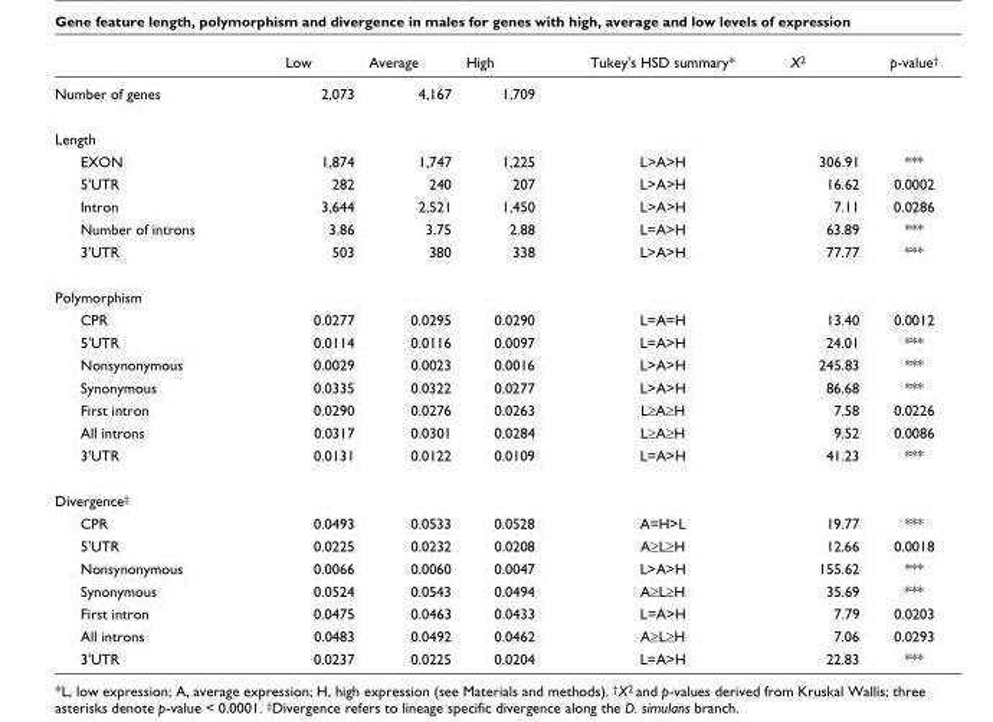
<table><thead><tr><td></td><td>Low</td><td>Average</td><td>High</td><td>Tukey&#x27;s HSD summary*</td><td>X<sup>2</sup></td><td>p-value<sup>†</sup></td></tr></thead><tbody><tr><td>Number of genes</td><td>2,073</td><td>4,167</td><td>1,709</td><td></td><td></td><td></td></tr><tr><td colspan="7">Length</td></tr><tr><td>EXON</td><td>1,874</td><td>1,747</td><td>1,225</td><td>L&gt;A&gt;H</td><td>306.91</td><td>***</td></tr><tr><td>5&#x27;UTR</td><td>282</td><td>240</td><td>207</td><td>L&gt;A&gt;H</td><td>16.62</td><td>0.0002</td></tr><tr><td>Intron</td><td>3,644</td><td>2,521</td><td>1,450</td><td>L&gt;A&gt;H</td><td>7.11</td><td>0.0286</td></tr><tr><td>Number of introns</td><td>3.86</td><td>3.75</td><td>2.88</td><td>L=A&gt;H</td><td>63.89</td><td>***</td></tr><tr><td>3&#x27;UTR</td><td>503</td><td>380</td><td>338</td><td>L&gt;A&gt;H</td><td>77.77</td><td>***</td></tr><tr><td colspan="7">Polymorphism</td></tr><tr><td>CPR</td><td>0.0277</td><td>0.0295</td><td>0.0290</td><td>L=A=H</td><td>13.40</td><td>0.0012</td></tr><tr><td>5&#x27;UTR</td><td>0.0114</td><td>0.0116</td><td>0.0097</td><td>L=A&gt;H</td><td>24.01</td><td>***</td></tr><tr><td>Nonsynonymous</td><td>0.0029</td><td>0.0023</td><td>0.0016</td><td>L&gt;A&gt;H</td><td>245.83</td><td>***</td></tr><tr><td>Synonymous</td><td>0.0335</td><td>0.0322</td><td>0.0277</td><td>L&gt;A&gt;H</td><td>86.68</td><td>***</td></tr><tr><td>First intron</td><td>0.0290</td><td>0.0276</td><td>0.0263</td><td>L≥A≥H</td><td>7.58</td><td>0.0226</td></tr><tr><td>All introns</td><td>0.0317</td><td>0.0301</td><td>0.0284</td><td>L≥A≥H</td><td>9.52</td><td>0.0086</td></tr><tr><td>3&#x27;UTR</td><td>0.0131</td><td>0.0122</td><td>0.0109</td><td>L=A&gt;H</td><td>41.23</td><td>***</td></tr><tr><td colspan="7">Divergence<sup>‡</sup></td></tr><tr><td>CPR</td><td>0.0493</td><td>0.0533</td><td>0.0528</td><td>A=H&gt;L</td><td>19.77</td><td>***</td></tr><tr><td>5&#x27;UTR</td><td>0.0225</td><td>0.0232</td><td>0.0208</td><td>A≥L≥H</td><td>12.66</td><td>0.0018</td></tr><tr><td>Nonsynonymous</td><td>0.0066</td><td>0.0060</td><td>0.0047</td><td>L&gt;A&gt;H</td><td>155.62</td><td>***</td></tr><tr><td>Synonymous</td><td>0.0524</td><td>0.0543</td><td>0.0494</td><td>A≥L≥H</td><td>35.69</td><td>***</td></tr><tr><td>First intron</td><td>0.0475</td><td>0.0463</td><td>0.0433</td><td>L=A&gt;H</td><td>7.79</td><td>0.0203</td></tr><tr><td>All introns</td><td>0.0483</td><td>0.0492</td><td>0.0462</td><td>A≥L≥H</td><td>7.06</td><td>0.0293</td></tr><tr><td>3&#x27;UTR</td><td>0.0237</td><td>0.0225</td><td>0.0204</td><td>L=A&gt;H</td><td>22.83</td><td>***</td></tr></tbody></table>